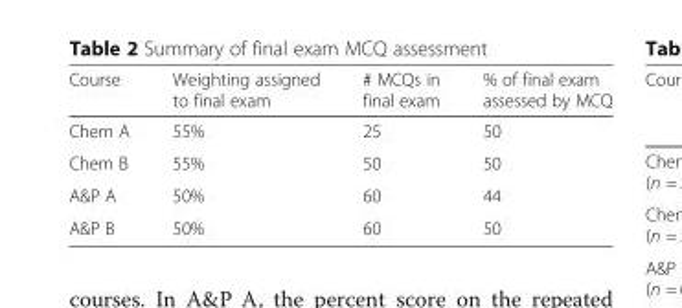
<table><thead><tr><td>Course</td><td>Weighting assigned to final exam</td><td># MCQs in final exam</td><td>% of final exam assessed by MCQ</td></tr></thead><tbody><tr><td>Chem A</td><td>55%</td><td>25</td><td>50</td></tr><tr><td>Chem B</td><td>55%</td><td>50</td><td>50</td></tr><tr><td>A&amp;P A</td><td>50%</td><td>60</td><td>44</td></tr><tr><td>A&amp;P B</td><td>50%</td><td>60</td><td>50</td></tr></tbody></table>